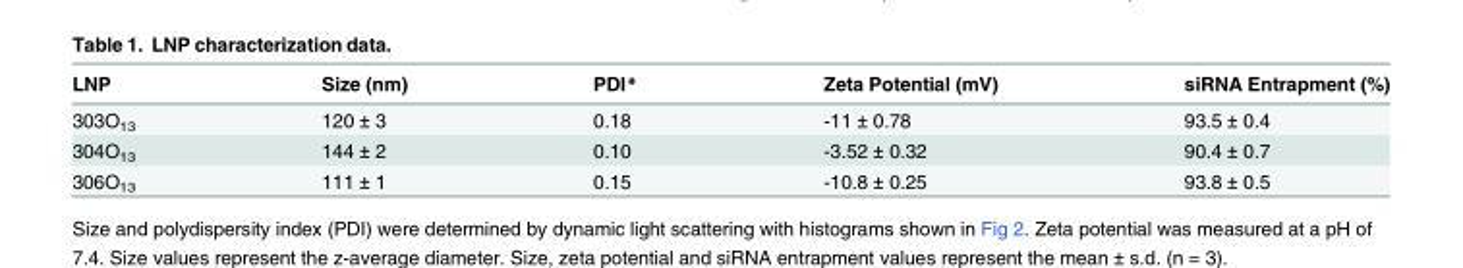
<table><thead><tr><td>LNP</td><td>Size (nm)</td><td>PDI*</td><td>Zeta Potential (mV)</td><td>siRNA Entrapment (%)</td></tr></thead><tbody><tr><td>303O<sub>13</sub></td><td>120 ± 3</td><td>0.18</td><td>-11 ± 0.78</td><td>93.5 ± 0.4</td></tr><tr><td>304O<sub>13</sub></td><td>144 ± 2</td><td>0.10</td><td>-3.52 ± 0.32</td><td>90.4 ± 0.7</td></tr><tr><td>306O<sub>13</sub></td><td>111 ± 1</td><td>0.15</td><td>-10.8 ± 0.25</td><td>93.8 ± 0.5</td></tr></tbody></table>